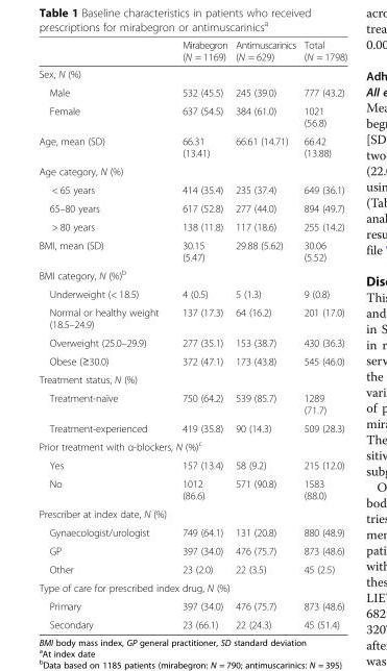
<table><thead><tr><td></td><td>Mirabegron (N = 1169)</td><td>Antimuscarinics (N = 629)</td><td>Total (N = 1798)</td></tr></thead><tbody><tr><td colspan="4">Sex, N (%)</td></tr><tr><td>Male</td><td>532 (45.5)</td><td>245 (39.0)</td><td>777 (43.2)</td></tr><tr><td>Female</td><td>637 (54.5)</td><td>384 (61.0)</td><td>1021 (56.8)</td></tr><tr><td>Age, mean (SD)</td><td>66.31 (13.41)</td><td>66.61 (14.71)</td><td>66.42 (13.88)</td></tr><tr><td colspan="4">Age category, N (%)</td></tr><tr><td>&lt; 65 years</td><td>414 (35.4)</td><td>235 (37.4)</td><td>649 (36.1)</td></tr><tr><td>65–80 years</td><td>617 (52.8)</td><td>277 (44.0)</td><td>894 (49.7)</td></tr><tr><td>&gt; 80 years</td><td>138 (11.8)</td><td>117 (18.6)</td><td>255 (14.2)</td></tr><tr><td>BMI, mean (SD)</td><td>30.15 (5.47)</td><td>29.88 (5.62)</td><td>30.06 (5.52)</td></tr><tr><td colspan="4">BMI category, N (%)<sup>b</sup></td></tr><tr><td>Underweight (&lt; 18.5)</td><td>4 (0.5)</td><td>5 (1.3)</td><td>9 (0.8)</td></tr><tr><td>Normal or healthy weight (18.5–24.9)</td><td>137 (17.3)</td><td>64 (16.2)</td><td>201 (17.0)</td></tr><tr><td>Overweight (25.0–29.9)</td><td>277 (35.1)</td><td>153 (38.7)</td><td>430 (36.3)</td></tr><tr><td>Obese (≥30.0)</td><td>372 (47.1)</td><td>173 (43.8)</td><td>545 (46.0)</td></tr><tr><td colspan="4">Treatment status, N (%)</td></tr><tr><td>Treatment-naïve</td><td>750 (64.2)</td><td>539 (85.7)</td><td>1289 (71.7)</td></tr><tr><td>Treatment-experienced</td><td>419 (35.8)</td><td>90 (14.3)</td><td>509 (28.3)</td></tr><tr><td colspan="4">Prior treatment with α-blockers, N (%)<sup>c</sup></td></tr><tr><td>Yes</td><td>157 (13.4)</td><td>58 (9.2)</td><td>215 (12.0)</td></tr><tr><td>No</td><td>1012 (86.6)</td><td>571 (90.8)</td><td>1583 (88.0)</td></tr><tr><td colspan="4">Prescriber at index date, N (%)</td></tr><tr><td>Gynaecologist/urologist</td><td>749 (64.1)</td><td>131 (20.8)</td><td>880 (48.9)</td></tr><tr><td>GP</td><td>397 (34.0)</td><td>476 (75.7)</td><td>873 (48.6)</td></tr><tr><td>Other</td><td>23 (2.0)</td><td>22 (3.5)</td><td>45 (2.5)</td></tr><tr><td colspan="4">Type of care for prescribed index drug, N (%)</td></tr><tr><td>Primary</td><td>397 (34.0)</td><td>476 (75.7)</td><td>873 (48.6)</td></tr><tr><td>Secondary</td><td>23 (66.1)</td><td>22 (24.3)</td><td>45 (51.4)</td></tr></tbody></table>